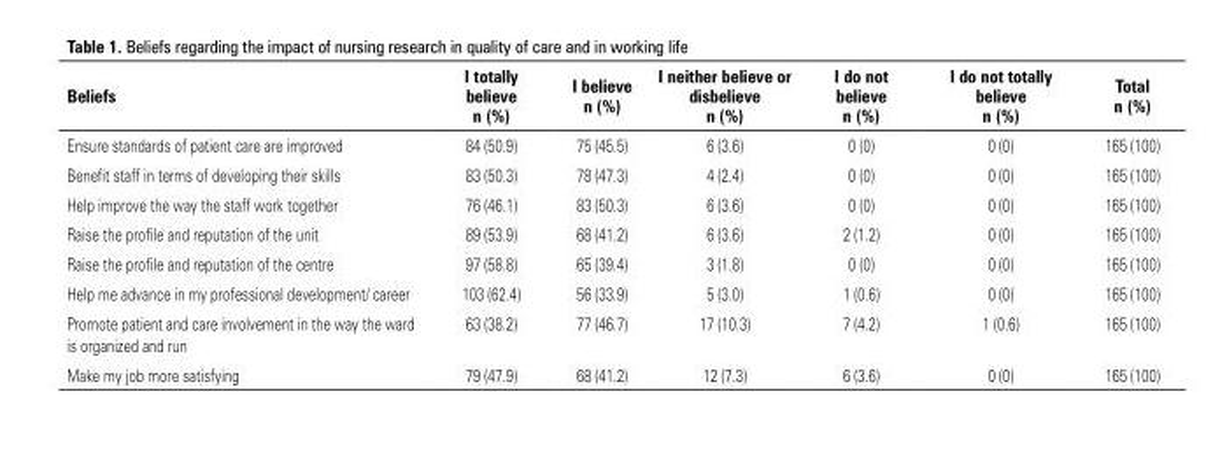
<table><thead><tr><td>Beliefs</td><td>I totally believe n (%)</td><td>I believe n (%)</td><td>I neither believe or disbelieve n (%)</td><td>I do not believe n (%)</td><td>I do not totally believe n (%)</td><td>Total n (%)</td></tr></thead><tbody><tr><td>Ensure standards of patient care are improved</td><td>84 (50.9)</td><td>75 (45.5)</td><td>6 (3.6)</td><td>0 (0)</td><td>0 (0)</td><td>165 (100)</td></tr><tr><td>Benefit staff in terms of developing their skills</td><td>83 (50.3)</td><td>78 (47.3)</td><td>4 (2.4)</td><td>0 (0)</td><td>0 (0)</td><td>165 (100)</td></tr><tr><td>Help improve the way the staff work together</td><td>76 (46.1)</td><td>83 (50.3)</td><td>6 (3.6)</td><td>0 (0)</td><td>0 (0)</td><td>165 (100)</td></tr><tr><td>Raise the profile and reputation of the unit</td><td>89 (53.9)</td><td>68 (41.2)</td><td>6 (3.6)</td><td>2 (1.2)</td><td>0 (0)</td><td>165 (100)</td></tr><tr><td>Raise the profile and reputation of the centre</td><td>97 (58.8)</td><td>65 (39.4)</td><td>3 (1.8)</td><td>0 (0)</td><td>0 (0)</td><td>165 (100)</td></tr><tr><td>Help me advance in my professional development/ career</td><td>103 (62.4)</td><td>56 (33.9)</td><td>5 (3.0)</td><td>1 (0.6)</td><td>0 (0)</td><td>165 (100)</td></tr><tr><td>Promote patient and care involvement in the way the ward is organized and run</td><td>63 (38.2)</td><td>77 (46.7)</td><td>17 (10.3)</td><td>7 (4.2)</td><td>1 (0.6)</td><td>165 (100)</td></tr><tr><td>Make my job more satisfying</td><td>79 (47.9)</td><td>68 (41.2)</td><td>12 (7.3)</td><td>6 (3.6)</td><td>0 (0)</td><td>165 (100)</td></tr></tbody></table>